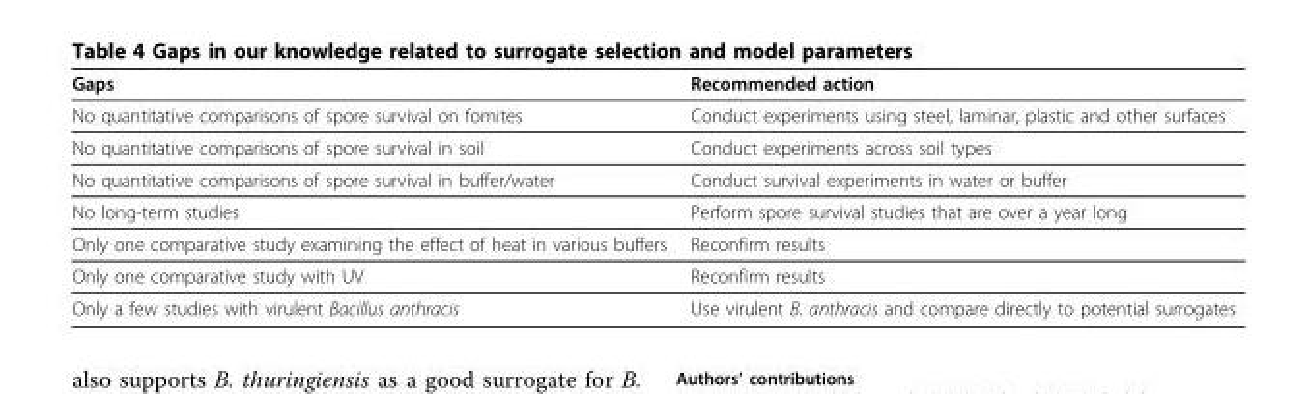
<table><thead><tr><td>Gaps</td><td>Recommended action</td></tr></thead><tbody><tr><td>No quantitative comparisons of spore survival on fomites</td><td>Conduct experiments using steel, laminar, plastic and other surfaces</td></tr><tr><td>No quantitative comparisons of spore survival in soil</td><td>Conduct experiments across soil types</td></tr><tr><td>No quantitative comparisons of spore survival in buffer/water</td><td>Conduct survival experiments in water or buffer</td></tr><tr><td>No long-term studies</td><td>Perform spore survival studies that are over a year long</td></tr><tr><td>Only one comparative study examining the effect of heat in various buffers</td><td>Reconfirm results</td></tr><tr><td>Only one comparative study with UV</td><td>Reconfirm results</td></tr><tr><td>Only a few studies with virulent Bacillus anthracis</td><td>Use virulent B. anthracis and compare directly to potential surrogates</td></tr></tbody></table>